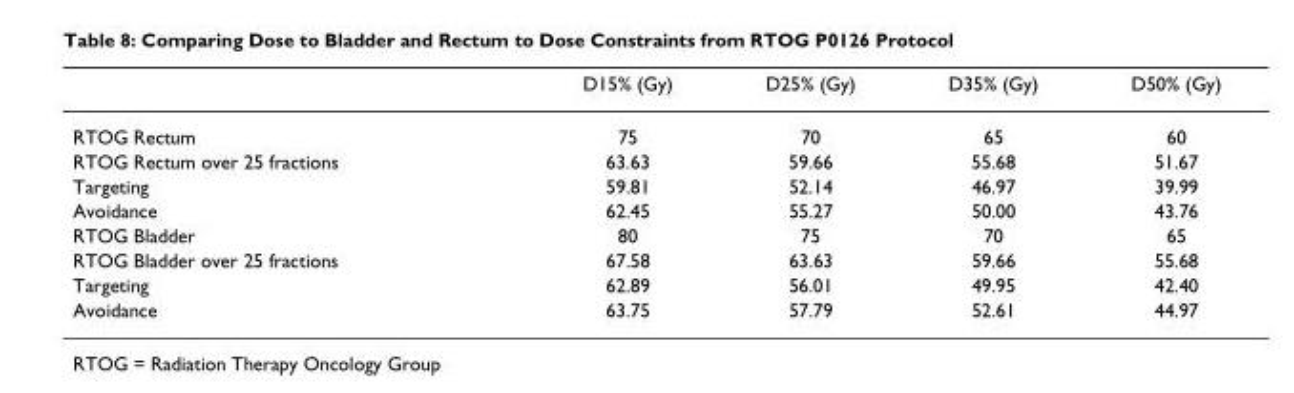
<table><thead><tr><td></td><td>D15% (Gy)</td><td>D25% (Gy)</td><td>D35% (Gy)</td><td>D50% (Gy)</td></tr></thead><tbody><tr><td>RTOG Rectum</td><td>75</td><td>70</td><td>65</td><td>60</td></tr><tr><td>RTOG Rectum over 25 fractions</td><td>63.63</td><td>59.66</td><td>55.68</td><td>51.67</td></tr><tr><td>Targeting</td><td>59.81</td><td>52.14</td><td>46.97</td><td>39.99</td></tr><tr><td>Avoidance</td><td>62.45</td><td>55.27</td><td>50.00</td><td>43.76</td></tr><tr><td>RTOG Bladder</td><td>80</td><td>75</td><td>70</td><td>65</td></tr><tr><td>RTOG Bladder over 25 fractions</td><td>67.58</td><td>63.63</td><td>59.66</td><td>55.68</td></tr><tr><td>Targeting</td><td>62.89</td><td>56.01</td><td>49.95</td><td>42.40</td></tr><tr><td>Avoidance</td><td>63.75</td><td>57.79</td><td>52.61</td><td>44.97</td></tr></tbody></table>